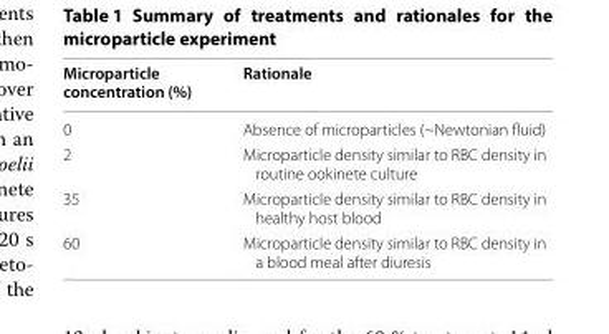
<table><thead><tr><td>Microparticle concentration (%)</td><td>Rationale</td></tr></thead><tbody><tr><td>0</td><td>Absence of microparticles (~Newtonian fluid)</td></tr><tr><td>2</td><td>Microparticle density similar to RBC density in routine ookinete culture</td></tr><tr><td>35</td><td>Microparticle density similar to RBC density in healthy host blood</td></tr><tr><td>60</td><td>Microparticle density similar to RBC density in a blood meal after diuresis</td></tr></tbody></table>